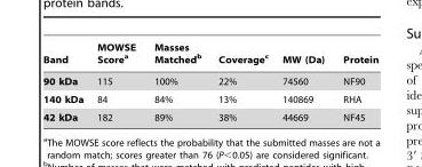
<table><thead><tr><td>Band</td><td>MOWSE Score<sup>a</sup></td><td>Masses Matched<sup>b</sup></td><td>Coverage<sup>c</sup></td><td>MW (Da)</td><td>Protein</td></tr></thead><tbody><tr><td>90 kDa</td><td>115</td><td>100%</td><td>22%</td><td>74560</td><td>NF90</td></tr><tr><td>140 kDa</td><td>84</td><td>84%</td><td>13%</td><td>140869</td><td>RHA</td></tr><tr><td>42 kDa</td><td>182</td><td>89%</td><td>38%</td><td>44669</td><td>NF45</td></tr></tbody></table>